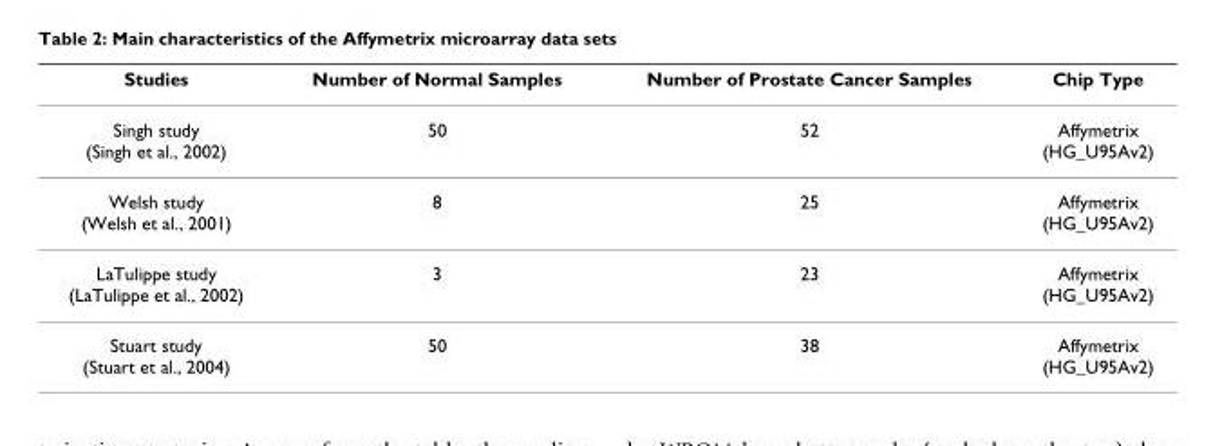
<table><thead><tr><td>Studies</td><td>Number of Normal Samples</td><td>Number of Prostate Cancer Samples</td><td>Chip Type</td></tr></thead><tbody><tr><td>Singh study (Singh et al., 2002)</td><td>50</td><td>52</td><td>Affymetrix (HG_U95Av2)</td></tr><tr><td>Welsh study (Welsh et al., 2001)</td><td>8</td><td>25</td><td>Affymetrix (HG_U95Av2)</td></tr><tr><td>LaTulippe study (LaTulippe et al., 2002)</td><td>3</td><td>23</td><td>Affymetrix (HG_U95Av2)</td></tr><tr><td>Stuart study (Stuart et al., 2004)</td><td>50</td><td>38</td><td>Affymetrix (HG_U95Av2)</td></tr></tbody></table>